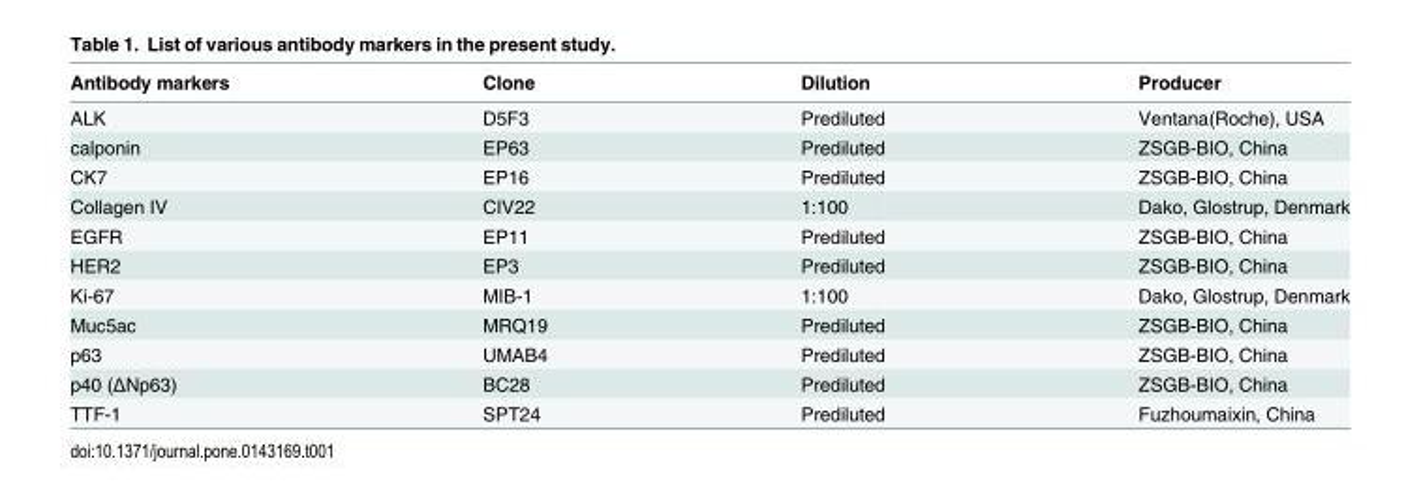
<table><thead><tr><td>Antibody markers</td><td>Clone</td><td>Dilution</td><td>Producer</td></tr></thead><tbody><tr><td>ALK</td><td>D5F3</td><td>Prediluted</td><td>Ventana(Roche), USA</td></tr><tr><td>calponin</td><td>EP63</td><td>Prediluted</td><td>ZSGB-BIO, China</td></tr><tr><td>CK7</td><td>EP16</td><td>Prediluted</td><td>ZSGB-BIO, China</td></tr><tr><td>Collagen IV</td><td>CIV22</td><td>1:100</td><td>Dako, Glostrup, Denmark</td></tr><tr><td>EGFR</td><td>EP11</td><td>Prediluted</td><td>ZSGB-BIO, China</td></tr><tr><td>HER2</td><td>EP3</td><td>Prediluted</td><td>ZSGB-BIO, China</td></tr><tr><td>Ki-67</td><td>MIB-1</td><td>1:100</td><td>Dako, Glostrup, Denmark</td></tr><tr><td>Muc5ac</td><td>MRQ19</td><td>Prediluted</td><td>ZSGB-BIO, China</td></tr><tr><td>p63</td><td>UMAB4</td><td>Prediluted</td><td>ZSGB-BIO, China</td></tr><tr><td>p40 (ΔNp63)</td><td>BC28</td><td>Prediluted</td><td>ZSGB-BIO, China</td></tr><tr><td>TTF-1</td><td>SPT24</td><td>Prediluted</td><td>Fuzhoumaixin, China</td></tr></tbody></table>